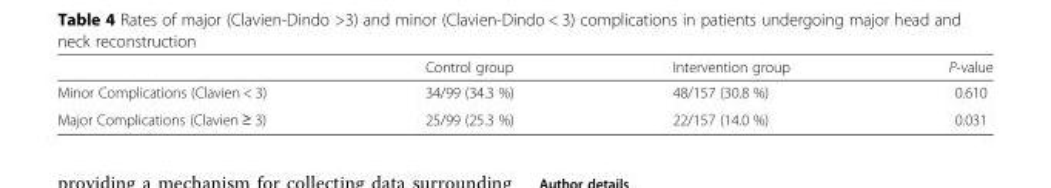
<table><thead><tr><td></td><td>Control group</td><td>Intervention group</td><td>P-value</td></tr></thead><tbody><tr><td>Minor Complications (Clavien &lt; 3)</td><td>34/99 (34.3 %)</td><td>48/157 (30.8 %)</td><td>0.610</td></tr><tr><td>Major Complications (Clavien ≥ 3)</td><td>25/99 (25.3 %)</td><td>22/157 (14.0 %)</td><td>0.031</td></tr></tbody></table>